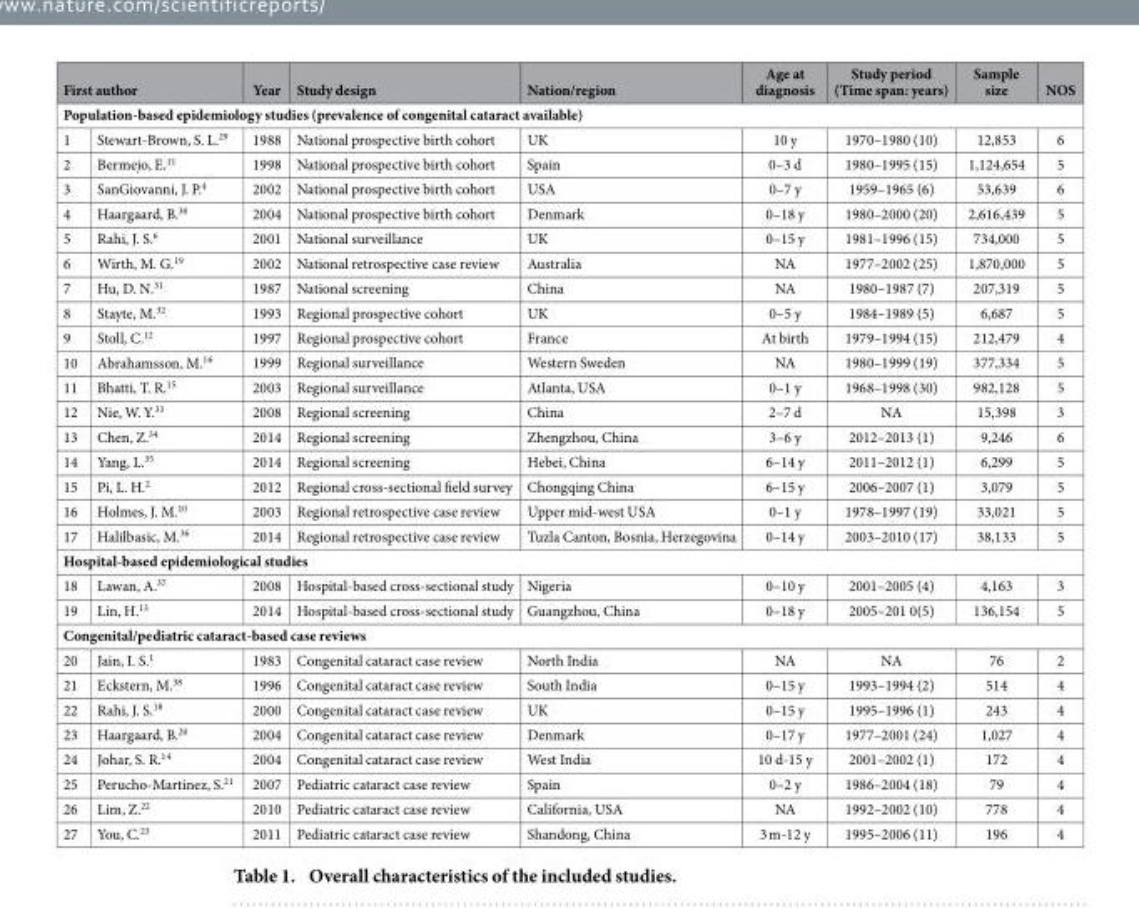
<table><thead><tr><td colspan="2">First author</td><td>Year</td><td>Study design</td><td>Nation/region</td><td>Age at diagnosis</td><td>Study period (Time span: years)</td><td>Sample size</td><td>NOS</td></tr><tr><td colspan="9">Population-based epidemiology studies (prevalence of congenital cataract available)</td></tr><tr><td>1</td><td>Stewart-Brown, S. L.<sup>29</sup></td><td>1988</td><td>National prospective birth cohort</td><td>UK</td><td>10 y</td><td>1970–1980 (10)</td><td>12,853</td><td>6</td></tr></thead><tbody><tr><td>2</td><td>Bermejo, E.<sup>11</sup></td><td>1998</td><td>National prospective birth cohort</td><td>Spain</td><td>0–3 d</td><td>1980–1995 (15)</td><td>1,124,654</td><td>5</td></tr><tr><td>3</td><td>SanGiovanni, J. P.<sup>4</sup></td><td>2002</td><td>National prospective birth cohort</td><td>USA</td><td>0–7 y</td><td>1959–1965 (6)</td><td>53,639</td><td>6</td></tr><tr><td>4</td><td>Haargaard, B.<sup>30</sup></td><td>2004</td><td>National prospective birth cohort</td><td>Denmark</td><td>0–18 y</td><td>1980–2000 (20)</td><td>2,616,439</td><td>5</td></tr><tr><td>5</td><td>Rahi, J. S.<sup>6</sup></td><td>2001</td><td>National surveillance</td><td>UK</td><td>0–15 y</td><td>1981–1996 (15)</td><td>734,000</td><td>5</td></tr><tr><td>6</td><td>Wirth, M. G.<sup>19</sup></td><td>2002</td><td>National retrospective case review</td><td>Australia</td><td>NA</td><td>1977–2002 (25)</td><td>1,870,000</td><td>5</td></tr><tr><td>7</td><td>Hu, D. N.<sup>31</sup></td><td>1987</td><td>National screening</td><td>China</td><td>NA</td><td>1980–1987 (7)</td><td>207,319</td><td>5</td></tr><tr><td>8</td><td>Stayte, M.<sup>32</sup></td><td>1993</td><td>Regional prospective cohort</td><td>UK</td><td>0–5 y</td><td>1984–1989 (5)</td><td>6,687</td><td>5</td></tr><tr><td>9</td><td>Stoll, C.<sup>12</sup></td><td>1997</td><td>Regional prospective cohort</td><td>France</td><td>At birth</td><td>1979–1994 (15)</td><td>212,479</td><td>4</td></tr><tr><td>10</td><td>Abrahamsson, M.<sup>16</sup></td><td>1999</td><td>Regional surveillance</td><td>Western Sweden</td><td>NA</td><td>1980–1999 (19)</td><td>377,334</td><td>5</td></tr><tr><td>11</td><td>Bhatti, T. R.<sup>15</sup></td><td>2003</td><td>Regional surveillance</td><td>Atlanta, USA</td><td>0–1 y</td><td>1968–1998 (30)</td><td>982,128</td><td>5</td></tr><tr><td>12</td><td>Nie, W. Y.<sup>33</sup></td><td>2008</td><td>Regional screening</td><td>China</td><td>2–7 d</td><td>NA</td><td>15,398</td><td>3</td></tr><tr><td>13</td><td>Chen, Z.<sup>34</sup></td><td>2014</td><td>Regional screening</td><td>Zhengzhou, China</td><td>3–6 y</td><td>2012–2013 (1)</td><td>9,246</td><td>6</td></tr><tr><td>14</td><td>Yang, L.<sup>35</sup></td><td>2014</td><td>Regional screening</td><td>Hebei, China</td><td>6–14 y</td><td>2011–2012 (1)</td><td>6,299</td><td>5</td></tr><tr><td>15</td><td>Pi, L. H.<sup>2</sup></td><td>2012</td><td>Regional cross-sectional field survey</td><td>Chongqing China</td><td>6–15 y</td><td>2006–2007 (1)</td><td>3,079</td><td>5</td></tr><tr><td>16</td><td>Holmes, J. M.<sup>10</sup></td><td>2003</td><td>Regional retrospective case review</td><td>Upper mid-west USA</td><td>0–1 y</td><td>1978–1997 (19)</td><td>33,021</td><td>5</td></tr><tr><td>17</td><td>Halilbasic, M.<sup>36</sup></td><td>2014</td><td>Regional retrospective case review</td><td>Tuzla Canton, Bosnia, Herzegovina</td><td>0–14 y</td><td>2003–2010 (17)</td><td>38,133</td><td>5</td></tr><tr><td colspan="9">Hospital-based epidemiological studies</td></tr><tr><td>18</td><td>Lawan, A.<sup>37</sup></td><td>2008</td><td>Hospital-based cross-sectional study</td><td>Nigeria</td><td>0–10 y</td><td>2001–2005 (4)</td><td>4,163</td><td>3</td></tr><tr><td>19</td><td>Lin, H.<sup>13</sup></td><td>2014</td><td>Hospital-based cross-sectional study</td><td>Guangzhou, China</td><td>0–18 y</td><td>2005–201 0(5)</td><td>136,154</td><td>5</td></tr><tr><td colspan="9">Congenital/pediatric cataract-based case reviews</td></tr><tr><td>20</td><td>Jain, I. S.<sup>1</sup></td><td>1983</td><td>Congenital cataract case review</td><td>North India</td><td>NA</td><td>NA</td><td>76</td><td>2</td></tr><tr><td>21</td><td>Eckstern, M.<sup>38</sup></td><td>1996</td><td>Congenital cataract case review</td><td>South India</td><td>0–15 y</td><td>1993–1994 (2)</td><td>514</td><td>4</td></tr><tr><td>22</td><td>Rahi, J. S.<sup>18</sup></td><td>2000</td><td>Congenital cataract case review</td><td>UK</td><td>0–15 y</td><td>1995–1996 (1)</td><td>243</td><td>4</td></tr><tr><td>23</td><td>Haargaard, B.<sup>20</sup></td><td>2004</td><td>Congenital cataract case review</td><td>Denmark</td><td>0–17 y</td><td>1977–2001 (24)</td><td>1,027</td><td>4</td></tr><tr><td>24</td><td>Johar, S. R.<sup>14</sup></td><td>2004</td><td>Congenital cataract case review</td><td>West India</td><td>10 d-15 y</td><td>2001–2002 (1)</td><td>172</td><td>4</td></tr><tr><td>25</td><td>Perucho-Martinez, S.<sup>21</sup></td><td>2007</td><td>Pediatric cataract case review</td><td>Spain</td><td>0–2 y</td><td>1986–2004 (18)</td><td>79</td><td>4</td></tr><tr><td>26</td><td>Lim, Z.<sup>22</sup></td><td>2010</td><td>Pediatric cataract case review</td><td>California, USA</td><td>NA</td><td>1992–2002 (10)</td><td>778</td><td>4</td></tr><tr><td>27</td><td>You, C.<sup>23</sup></td><td>2011</td><td>Pediatric cataract case review</td><td>Shandong, China</td><td>3 m-12 y</td><td>1995–2006 (11)</td><td>196</td><td>4</td></tr></tbody></table>